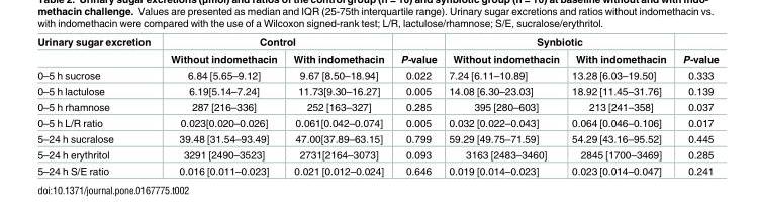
<table><thead><tr><td rowspan="2">Urinary sugar excretion</td><td colspan="2">Control</td><td rowspan="2">P-value</td><td colspan="2">Synbiotic</td><td rowspan="2">P-value</td></tr><tr><td>Without indomethacin</td><td>With indomethacin</td><td>Without indomethacin</td><td>With indomethacin</td></tr></thead><tbody><tr><td>0–5 h sucrose</td><td>6.84 [5.65–9.12]</td><td>9.67 [8.50–18.94]</td><td>0.022</td><td>7.24 [6.11–10.89]</td><td>13.28 [6.03–19.50]</td><td>0.333</td></tr><tr><td>0–5 h lactulose</td><td>6.19[5.14–7.24]</td><td>11.73[9.30–16.27]</td><td>0.005</td><td>14.08 [6.30–23.03]</td><td>18.92 [11.45–31.76]</td><td>0.139</td></tr><tr><td>0–5 h rhamnose</td><td>287 [216–336]</td><td>252 [163–327]</td><td>0.285</td><td>395 [280–603]</td><td>213 [241–358]</td><td>0.037</td></tr><tr><td>0–5 h L/R ratio</td><td>0.023[0.020–0.026]</td><td>0.061[0.042–0.074]</td><td>0.005</td><td>0.032 [0.022–0.043]</td><td>0.064 [0.046–0.106]</td><td>0.017</td></tr><tr><td>5–24 h sucralose</td><td>39.48 [31.54–93.49]</td><td>47.00[37.89–63.15]</td><td>0.799</td><td>59.29 [49.75–71.59]</td><td>54.29 [43.16–95.52]</td><td>0.445</td></tr><tr><td>5–24 h erythritol</td><td>3291 [2490–3523]</td><td>2731[2164–3073]</td><td>0.093</td><td>3163 [2483–3460]</td><td>2845 [1700–3469]</td><td>0.285</td></tr><tr><td>5–24 h S/E ratio</td><td>0.016 [0.011–0.023]</td><td>0.021 [0.012–0.024]</td><td>0.646</td><td>0.019 [0.014–0.023]</td><td>0.023 [0.014–0.047]</td><td>0.241</td></tr></tbody></table>